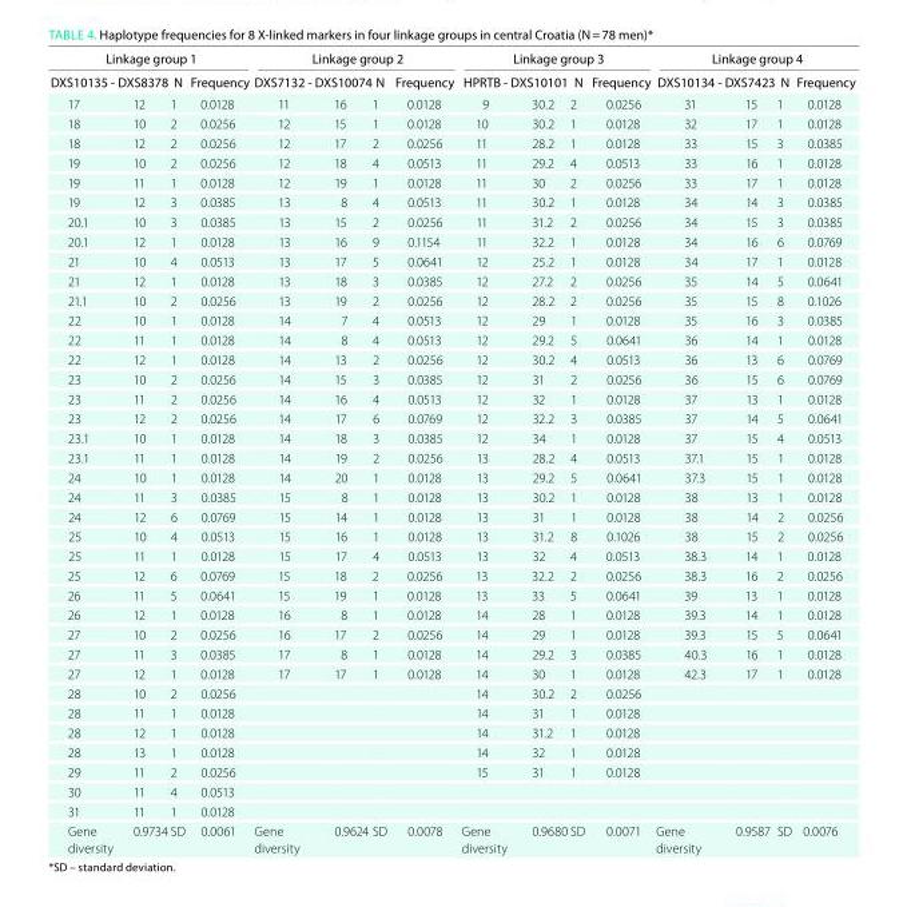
<table><thead><tr><td colspan="4">linkage group 1</td><td colspan="4">linkage group 2</td><td colspan="4">linkage group 3</td><td colspan="4">linkage group 4</td></tr><tr><td colspan="2">DXS10135 - DXS8378</td><td rowspan="2">N 1</td><td rowspan="2">Frequency 0.0128</td><td colspan="2">DXS7132 - DXS10074</td><td rowspan="2">N 1</td><td rowspan="2">Frequency 0.0128</td><td colspan="2">hPRtB - DXS10101</td><td rowspan="2">N 2</td><td rowspan="2">Frequency 0.0256</td><td colspan="2">DXS10134 - DXS7423</td><td rowspan="2">N 1</td><td rowspan="2">Frequency 0.0128</td></tr><tr><td>17</td><td>12</td><td>11</td><td>16</td><td>9</td><td>30.2</td><td>31</td><td>15</td></tr></thead><tbody><tr><td>18</td><td>10</td><td>2</td><td>0.0256</td><td>12</td><td>15</td><td>1</td><td>0.0128</td><td>10</td><td>30.2</td><td>1</td><td>0.0128</td><td>32</td><td>17</td><td>1</td><td>0.0128</td></tr><tr><td>18</td><td>12</td><td>2</td><td>0.0256</td><td>12</td><td>17</td><td>2</td><td>0.0256</td><td>11</td><td>28.2</td><td>1</td><td>0.0128</td><td>33</td><td>15</td><td>3</td><td>0.0385</td></tr><tr><td>19</td><td>10</td><td>2</td><td>0.0256</td><td>12</td><td>18</td><td>4</td><td>0.0513</td><td>11</td><td>29.2</td><td>4</td><td>0.0513</td><td>33</td><td>16</td><td>1</td><td>0.0128</td></tr><tr><td>19</td><td>11</td><td>1</td><td>0.0128</td><td>12</td><td>19</td><td>1</td><td>0.0128</td><td>11</td><td>30</td><td>2</td><td>0.0256</td><td>33</td><td>17</td><td>1</td><td>0.0128</td></tr><tr><td>19</td><td>12</td><td>3</td><td>0.0385</td><td>13</td><td>8</td><td>4</td><td>0.0513</td><td>11</td><td>30.2</td><td>1</td><td>0.0128</td><td>34</td><td>14</td><td>3</td><td>0.0385</td></tr><tr><td>20.1</td><td>10</td><td>3</td><td>0.0385</td><td>13</td><td>15</td><td>2</td><td>0.0256</td><td>11</td><td>31.2</td><td>2</td><td>0.0256</td><td>34</td><td>15</td><td>3</td><td>0.0385</td></tr><tr><td>20.1</td><td>12</td><td>1</td><td>0.0128</td><td>13</td><td>16</td><td>9</td><td>0.1154</td><td>11</td><td>32.2</td><td>1</td><td>0.0128</td><td>34</td><td>16</td><td>6</td><td>0.0769</td></tr><tr><td>21</td><td>10</td><td>4</td><td>0.0513</td><td>13</td><td>17</td><td>5</td><td>0.0641</td><td>12</td><td>25.2</td><td>1</td><td>0.0128</td><td>34</td><td>17</td><td>1</td><td>0.0128</td></tr><tr><td>21</td><td>12</td><td>1</td><td>0.0128</td><td>13</td><td>18</td><td>3</td><td>0.0385</td><td>12</td><td>27.2</td><td>2</td><td>0.0256</td><td>35</td><td>14</td><td>5</td><td>0.0641</td></tr><tr><td>21.1</td><td>10</td><td>2</td><td>0.0256</td><td>13</td><td>19</td><td>2</td><td>0.0256</td><td>12</td><td>28.2</td><td>2</td><td>0.0256</td><td>35</td><td>15</td><td>8</td><td>0.1026</td></tr><tr><td>22</td><td>10</td><td>1</td><td>0.0128</td><td>14</td><td>7</td><td>4</td><td>0.0513</td><td>12</td><td>29</td><td>1</td><td>0.0128</td><td>35</td><td>16</td><td>3</td><td>0.0385</td></tr><tr><td>22</td><td>11</td><td>1</td><td>0.0128</td><td>14</td><td>8</td><td>4</td><td>0.0513</td><td>12</td><td>29.2</td><td>5</td><td>0.0641</td><td>36</td><td>14</td><td>1</td><td>0.0128</td></tr><tr><td>22</td><td>12</td><td>1</td><td>0.0128</td><td>14</td><td>13</td><td>2</td><td>0.0256</td><td>12</td><td>30.2</td><td>4</td><td>0.0513</td><td>36</td><td>13</td><td>6</td><td>0.0769</td></tr><tr><td>23</td><td>10</td><td>2</td><td>0.0256</td><td>14</td><td>15</td><td>3</td><td>0.0385</td><td>12</td><td>31</td><td>2</td><td>0.0256</td><td>36</td><td>15</td><td>6</td><td>0.0769</td></tr><tr><td>23</td><td>11</td><td>2</td><td>0.0256</td><td>14</td><td>16</td><td>4</td><td>0.0513</td><td>12</td><td>32</td><td>1</td><td>0.0128</td><td>37</td><td>13</td><td>1</td><td>0.0128</td></tr><tr><td>23</td><td>12</td><td>2</td><td>0.0256</td><td>14</td><td>17</td><td>6</td><td>0.0769</td><td>12</td><td>32.2</td><td>3</td><td>0.0385</td><td>37</td><td>14</td><td>5</td><td>0.0641</td></tr><tr><td>23.1</td><td>10</td><td>1</td><td>0.0128</td><td>14</td><td>18</td><td>3</td><td>0.0385</td><td>12</td><td>34</td><td>1</td><td>0.0128</td><td>37</td><td>15</td><td>4</td><td>0.0513</td></tr><tr><td>23.1</td><td>11</td><td>1</td><td>0.0128</td><td>14</td><td>19</td><td>2</td><td>0.0256</td><td>13</td><td>28.2</td><td>4</td><td>0.0513</td><td>37.1</td><td>15</td><td>1</td><td>0.0128</td></tr><tr><td>24</td><td>10</td><td>1</td><td>0.0128</td><td>14</td><td>20</td><td>1</td><td>0.0128</td><td>13</td><td>29.2</td><td>5</td><td>0.0641</td><td>37.3</td><td>15</td><td>1</td><td>0.0128</td></tr><tr><td>24</td><td>11</td><td>3</td><td>0.0385</td><td>15</td><td>8</td><td>1</td><td>0.0128</td><td>13</td><td>30.2</td><td>1</td><td>0.0128</td><td>38</td><td>13</td><td>1</td><td>0.0128</td></tr><tr><td>24</td><td>12</td><td>6</td><td>0.0769</td><td>15</td><td>14</td><td>1</td><td>0.0128</td><td>13</td><td>31</td><td>1</td><td>0.0128</td><td>38</td><td>14</td><td>2</td><td>0.0256</td></tr><tr><td>25</td><td>10</td><td>4</td><td>0.0513</td><td>15</td><td>16</td><td>1</td><td>0.0128</td><td>13</td><td>31.2</td><td>8</td><td>0.1026</td><td>38</td><td>15</td><td>2</td><td>0.0256</td></tr><tr><td>25</td><td>11</td><td>1</td><td>0.0128</td><td>15</td><td>17</td><td>4</td><td>0.0513</td><td>13</td><td>32</td><td>4</td><td>0.0513</td><td>38.3</td><td>14</td><td>1</td><td>0.0128</td></tr><tr><td>25</td><td>12</td><td>6</td><td>0.0769</td><td>15</td><td>18</td><td>2</td><td>0.0256</td><td>13</td><td>32.2</td><td>2</td><td>0.0256</td><td>38.3</td><td>16</td><td>2</td><td>0.0256</td></tr><tr><td>26</td><td>11</td><td>5</td><td>0.0641</td><td>15</td><td>19</td><td>1</td><td>0.0128</td><td>13</td><td>33</td><td>5</td><td>0.0641</td><td>39</td><td>13</td><td>1</td><td>0.0128</td></tr><tr><td>26</td><td>12</td><td>1</td><td>0.0128</td><td>16</td><td>8</td><td>1</td><td>0.0128</td><td>14</td><td>28</td><td>1</td><td>0.0128</td><td>39.3</td><td>14</td><td>1</td><td>0.0128</td></tr><tr><td>27</td><td>10</td><td>2</td><td>0.0256</td><td>16</td><td>17</td><td>2</td><td>0.0256</td><td>14</td><td>29</td><td>1</td><td>0.0128</td><td>39.3</td><td>15</td><td>5</td><td>0.0641</td></tr><tr><td>27</td><td>11</td><td>3</td><td>0.0385</td><td>17</td><td>8</td><td>1</td><td>0.0128</td><td>14</td><td>29.2</td><td>3</td><td>0.0385</td><td>40.3</td><td>16</td><td>1</td><td>0.0128</td></tr><tr><td>27</td><td>12</td><td>1</td><td>0.0128</td><td>17</td><td>17</td><td>1</td><td>0.0128</td><td>14</td><td>30</td><td>1</td><td>0.0128</td><td>42.3</td><td>17</td><td>1</td><td>0.0128</td></tr><tr><td>28</td><td>10</td><td>2</td><td>0.0256</td><td></td><td></td><td></td><td></td><td>14</td><td>30.2</td><td>2</td><td>0.0256</td><td></td><td></td><td></td><td></td></tr><tr><td>28</td><td>11</td><td>1</td><td>0.0128</td><td></td><td></td><td></td><td></td><td>14</td><td>31</td><td>1</td><td>0.0128</td><td></td><td></td><td></td><td></td></tr><tr><td>28</td><td>12</td><td>1</td><td>0.0128</td><td></td><td></td><td></td><td></td><td>14</td><td>31.2</td><td>1</td><td>0.0128</td><td></td><td></td><td></td><td></td></tr><tr><td>28</td><td>13</td><td>1</td><td>0.0128</td><td></td><td></td><td></td><td></td><td>14</td><td>32</td><td>1</td><td>0.0128</td><td></td><td></td><td></td><td></td></tr><tr><td>29</td><td>11</td><td>2</td><td>0.0256</td><td></td><td></td><td></td><td></td><td>15</td><td>31</td><td>1</td><td>0.0128</td><td></td><td></td><td></td><td></td></tr><tr><td>30</td><td>11</td><td>4</td><td>0.0513</td><td></td><td></td><td></td><td></td><td></td><td></td><td></td><td></td><td></td><td></td><td></td><td></td></tr><tr><td>31</td><td>11</td><td>1</td><td>0.0128</td><td></td><td></td><td></td><td></td><td></td><td></td><td></td><td></td><td></td><td></td><td></td><td></td></tr><tr><td>Gene diversity</td><td>0.9734</td><td>SD</td><td>0.0061</td><td>Gene diversity</td><td>0.9624</td><td>SD</td><td>0.0078</td><td>Gene diversity</td><td>0.9680</td><td>SD</td><td>0.0071</td><td>Gene diversity</td><td>0.9587</td><td>SD</td><td>0.0076</td></tr></tbody></table>